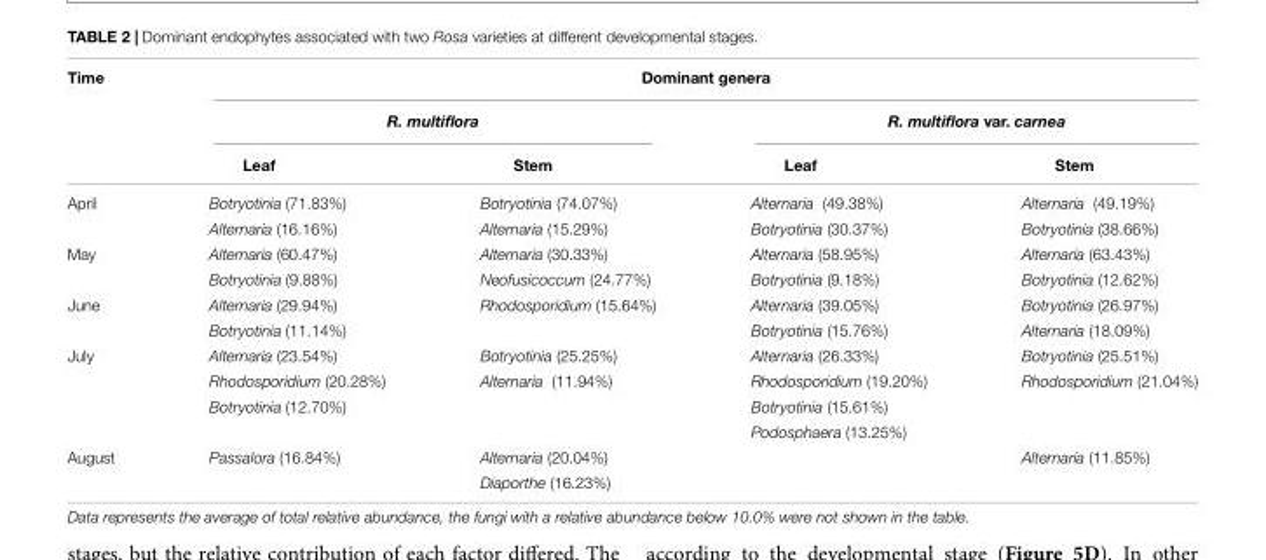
<table><thead><tr><td rowspan="3">Time</td><td colspan="4">Dominant genera</td></tr><tr><td colspan="2">R. multiflora</td><td colspan="2">R. multiflora var. carnea</td></tr><tr><td>Leaf</td><td>Stem</td><td>Leaf</td><td>Stem</td></tr></thead><tbody><tr><td rowspan="2">April</td><td>Botryotinia (71.83%)</td><td>Botryotinia (74.07%)</td><td>Alternaria (49.38%)</td><td>Alternaria (49.19%)</td></tr><tr><td>Alternaria (16.16%)</td><td>Alternaria (15.29%)</td><td>Botryotinia (30.37%)</td><td>Botryotinia (38.66%)</td></tr><tr><td rowspan="2">May</td><td>Alternaria (60.47%)</td><td>Alternaria (30.33%)</td><td>Alternaria (58.95%)</td><td>Alternaria (63.43%)</td></tr><tr><td>Botryotinia (9.88%)</td><td>Neofusicoccum (24.77%)</td><td>Botryotinia (9.18%)</td><td>Botryotinia (12.62%)</td></tr><tr><td rowspan="2">June</td><td>Alternaria (29.94%)</td><td>Rhodosporidium (15.64%)</td><td>Alternaria (39.05%)</td><td>Botryotinia (26.97%)</td></tr><tr><td>Botryotinia (11.14%)</td><td></td><td>Botryotinia (15.76%)</td><td>Alternaria (18.09%)</td></tr><tr><td rowspan="4">July</td><td>Alternaria (23.54%)</td><td>Botryotinia (25.25%)</td><td>Alternaria (26.33%)</td><td>Botryotinia (25.51%)</td></tr><tr><td>Rhodosporidium (20.28%)</td><td>Alternaria (11.94%)</td><td>Rhodosporidium (19.20%)</td><td>Rhodosporidium (21.04%)</td></tr><tr><td>Botryotinia (12.70%)</td><td></td><td>Botryotinia (15.61%)</td><td></td></tr><tr><td></td><td></td><td>Podosphaera (13.25%)</td><td></td></tr><tr><td rowspan="2">August</td><td>Passalora (16.84%)</td><td>Alternaria (20.04%)</td><td></td><td>Alternaria (11.85%)</td></tr><tr><td></td><td>Diaporthe (16.23%)</td><td></td><td></td></tr></tbody></table>